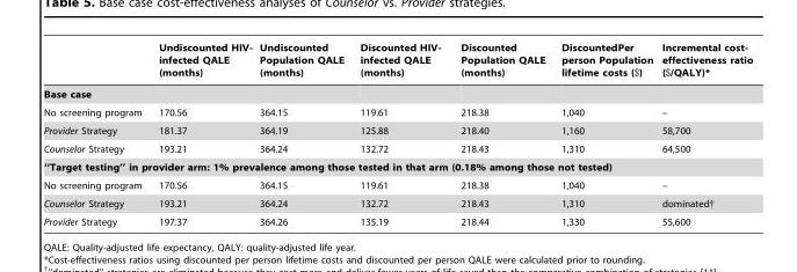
<table><thead><tr><td></td><td>Undiscounted HIV- infected QALE (months)</td><td>Undiscounted Population QALE (months)</td><td>Discounted HIV- infected QALE (months)</td><td>Discounted Population QALE (months)</td><td>DiscountedPer person Population lifetime costs ($)</td><td>Incremental cost- effectiveness ratio ($/QALY)*</td></tr></thead><tbody><tr><td colspan="7">Base case</td></tr><tr><td>No screening program</td><td>170.56</td><td>364.15</td><td>119.61</td><td>218.38</td><td>1,040</td><td>–</td></tr><tr><td>Provider Strategy</td><td>181.37</td><td>364.19</td><td>125.88</td><td>218.40</td><td>1,160</td><td>58,700</td></tr><tr><td>Counselor Strategy</td><td>193.21</td><td>364.24</td><td>132.72</td><td>218.43</td><td>1,310</td><td>64,500</td></tr><tr><td colspan="7">‘‘Target testing’’ in provider arm: 1% prevalence among those tested in that arm (0.18% among those not tested)</td></tr><tr><td>No screening program</td><td>170.56</td><td>364.15</td><td>119.61</td><td>218.38</td><td>1,040</td><td>–</td></tr><tr><td>Counselor Strategy</td><td>193.21</td><td>364.24</td><td>132.72</td><td>218.43</td><td>1,310</td><td>dominated†</td></tr><tr><td>Provider Strategy</td><td>197.37</td><td>364.26</td><td>135.19</td><td>218.44</td><td>1,330</td><td>55,600</td></tr></tbody></table>